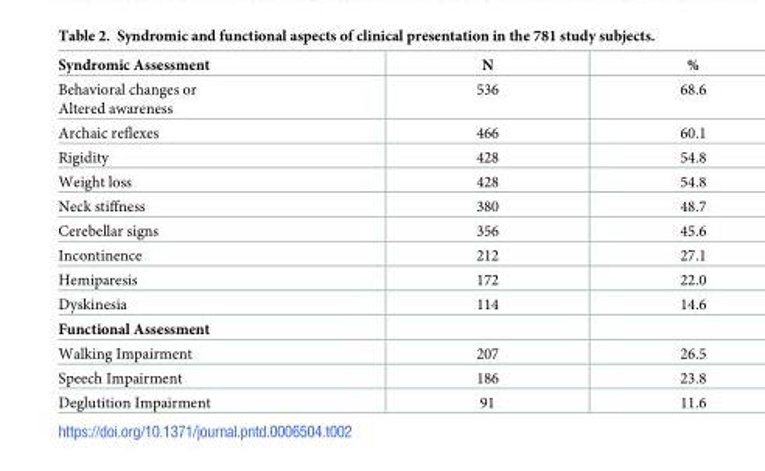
<table><thead><tr><td>Syndromic Assessment</td><td>N</td><td>%</td></tr></thead><tbody><tr><td>Behavioral changes or Altered awareness</td><td>536</td><td>68.6</td></tr><tr><td>Archaic reflexes</td><td>466</td><td>60.1</td></tr><tr><td>Rigidity</td><td>428</td><td>54.8</td></tr><tr><td>Weight loss</td><td>428</td><td>54.8</td></tr><tr><td>Neck stiffness</td><td>380</td><td>48.7</td></tr><tr><td>Cerebellar signs</td><td>356</td><td>45.6</td></tr><tr><td>Incontinence</td><td>212</td><td>27.1</td></tr><tr><td>Hemiparesis</td><td>172</td><td>22.0</td></tr><tr><td>Dyskinesia</td><td>114</td><td>14.6</td></tr><tr><td colspan="3">Functional Assessment</td></tr><tr><td>Walking Impairment</td><td>207</td><td>26.5</td></tr><tr><td>Speech Impairment</td><td>186</td><td>23.8</td></tr><tr><td>Deglutition Impairment</td><td>91</td><td>11.6</td></tr></tbody></table>